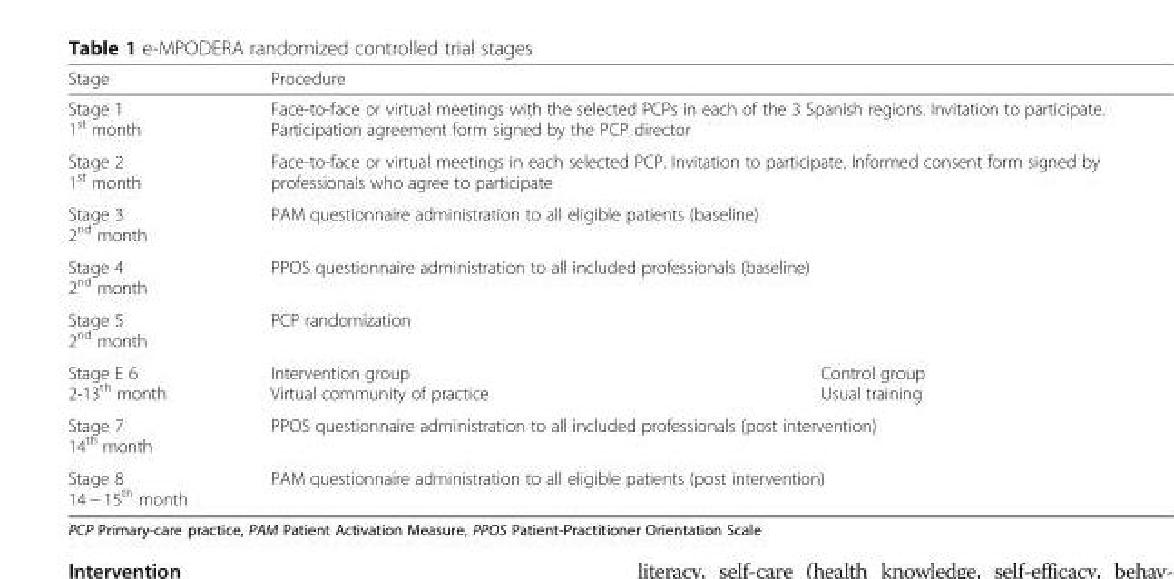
<table><thead><tr><td>Stage</td><td colspan="2">Procedure</td></tr></thead><tbody><tr><td>Stage 1 1<sup>st</sup> month</td><td colspan="2">Face-to-face or virtual meetings with the selected PCPs in each of the 3 Spanish regions. Invitation to participate. Participation agreement form signed by the PCP director</td></tr><tr><td>Stage 2 1<sup>st</sup> month</td><td colspan="2">Face-to-face or virtual meetings in each selected PCP. Invitation to participate. Informed consent form signed by professionals who agree to participate</td></tr><tr><td>Stage 3 2<sup>nd</sup> month</td><td colspan="2">PAM questionnaire administration to all eligible patients (baseline)</td></tr><tr><td>Stage 4 2<sup>nd</sup> month</td><td colspan="2">PPOS questionnaire administration to all included professionals (baseline)</td></tr><tr><td>Stage 5 2<sup>nd</sup> month</td><td colspan="2">PCP randomization</td></tr><tr><td>Stage E 6 2-13<sup>th</sup> month</td><td>Intervention group Virtual community of practice</td><td>Control group Usual training</td></tr><tr><td>Stage 7 14<sup>th</sup> month</td><td colspan="2">PPOS questionnaire administration to all included professionals (post intervention)</td></tr><tr><td>Stage 8 14 − 15<sup>th</sup> month</td><td colspan="2">PAM questionnaire administration to all eligible patients (post intervention)</td></tr></tbody></table>